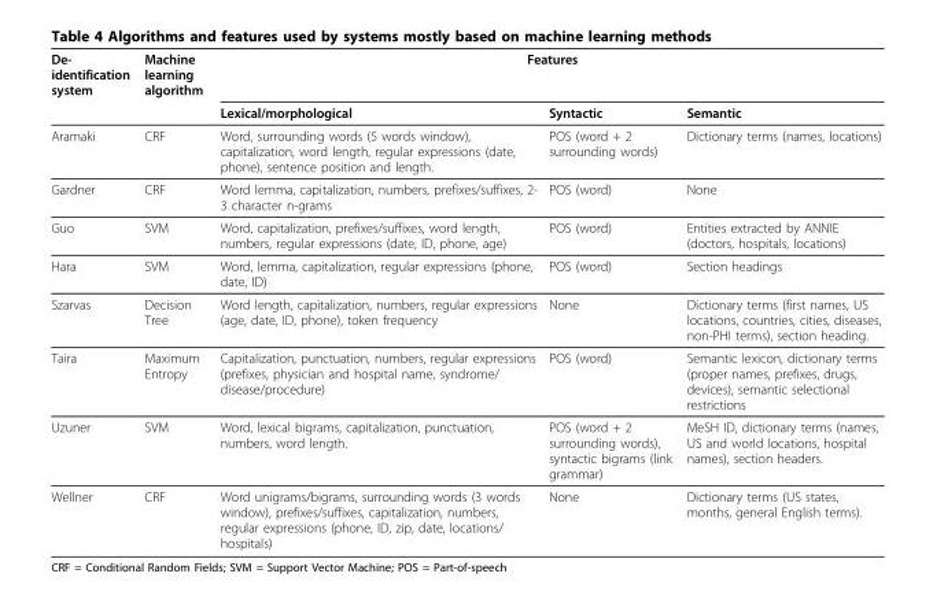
<table><thead><tr><td rowspan="2">De- identification system</td><td rowspan="2">Machine learning algorithm</td><td colspan="3">Features</td></tr><tr><td>Lexical/morphological</td><td>Syntactic</td><td>Semantic</td></tr></thead><tbody><tr><td>Aramaki</td><td>CRF</td><td>Word, surrounding words (5 words window), capitalization, word length, regular expressions (date, phone), sentence position and length.</td><td>POS (word + 2 surrounding words)</td><td>Dictionary terms (names, locations)</td></tr><tr><td>Gardner</td><td>CRF</td><td>Word lemma, capitalization, numbers, prefixes/suffixes, 2- 3 character n-grams</td><td>POS (word)</td><td>None</td></tr><tr><td>Guo</td><td>SVM</td><td>Word, capitalization, prefixes/suffixes, word length, numbers, regular expressions (date, ID, phone, age)</td><td>POS (word)</td><td>Entities extracted by ANNIE (doctors, hospitals, locations)</td></tr><tr><td>Hara</td><td>SVM</td><td>Word, lemma, capitalization, regular expressions (phone, date, ID)</td><td>POS (word)</td><td>Section headings</td></tr><tr><td>Szarvas</td><td>Decision Tree</td><td>Word length, capitalization, numbers, regular expressions (age, date, ID, phone), token frequency</td><td>None</td><td>Dictionary terms (first names, US locations, countries, cities, diseases, non-PHI terms), section heading.</td></tr><tr><td>Taira</td><td>Maximum Entropy</td><td>Capitalization, punctuation, numbers, regular expressions (prefixes, physician and hospital name, syndrome/ disease/procedure)</td><td>POS (word)</td><td>Semantic lexicon, dictionary terms (proper names, prefixes, drugs, devices), semantic selectional restrictions</td></tr><tr><td>Uzuner</td><td>SVM</td><td>Word, lexical bigrams, capitalization, punctuation, numbers, word length.</td><td>POS (word + 2 surrounding words), syntactic bigrams (link grammar)</td><td>MeSH ID, dictionary terms (names, US and world locations, hospital names), section headers.</td></tr><tr><td>Wellner</td><td>CRF</td><td>Word unigrams/bigrams, surrounding words (3 words window), prefixes/suffixes, capitalization, numbers, regular expressions (phone, ID, zip, date, locations/ hospitals)</td><td>None</td><td>Dictionary terms (US states, months, general English terms).</td></tr></tbody></table>